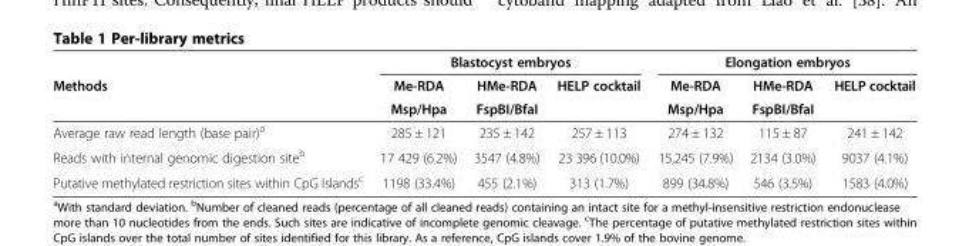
<table><thead><tr><td rowspan="3">Methods</td><td colspan="3">Blastocyst embryos</td><td colspan="3">Elongation embryos</td></tr><tr><td rowspan="2">Me-RDA Msp/Hpa</td><td rowspan="2">HMe-RDA FspBI/BfaI</td><td rowspan="2">HELP cocktail</td><td rowspan="2">Me-RDA Msp/Hpa</td><td rowspan="2">HMe-RDA FspBI/BfaI</td><td rowspan="2">HELP cocktail</td></tr><tr></tr></thead><tbody><tr><td>Average raw read length (base pair)<sup>a</sup></td><td>285 ± 121</td><td>235 ± 142</td><td>257 ± 113</td><td>274 ± 132</td><td>115 ± 87</td><td>241 ± 142</td></tr><tr><td>Reads with internal genomic digestion site<sup>b</sup></td><td>17 429 (6.2%)</td><td>3547 (4.8%)</td><td>23 396 (10.0%)</td><td>15,245 (7.9%)</td><td>2134 (3.0%)</td><td>9037 (4.1%)</td></tr><tr><td>Putative methylated restriction sites within CpG Islands<sup>c</sup></td><td>1198 (33.4%)</td><td>455 (2.1%)</td><td>313 (1.7%)</td><td>899 (34.8%)</td><td>546 (3.5%)</td><td>1583 (4.0%)</td></tr></tbody></table>